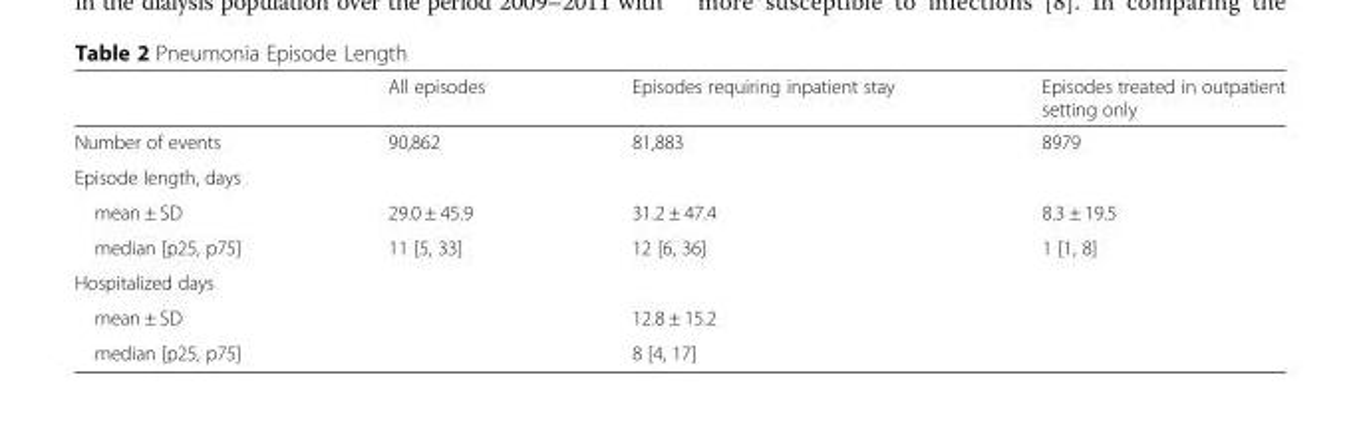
<table><thead><tr><td></td><td>All episodes</td><td>Episodes requiring inpatient stay</td><td>Episodes treated in outpatient setting only</td></tr></thead><tbody><tr><td>Number of events</td><td>90,862</td><td>81,883</td><td>8979</td></tr><tr><td colspan="4">Episode length, days</td></tr><tr><td>mean ± SD</td><td>29.0 ± 45.9</td><td>31.2 ± 47.4</td><td>8.3 ± 19.5</td></tr><tr><td>median [p25, p75]</td><td>11 [5, 33]</td><td>12 [6, 36]</td><td>1 [1, 8]</td></tr><tr><td colspan="4">Hospitalized days</td></tr><tr><td>mean ± SD</td><td></td><td>12.8 ± 15.2</td><td></td></tr><tr><td>median [p25, p75]</td><td></td><td>8 [4, 17]</td><td></td></tr></tbody></table>